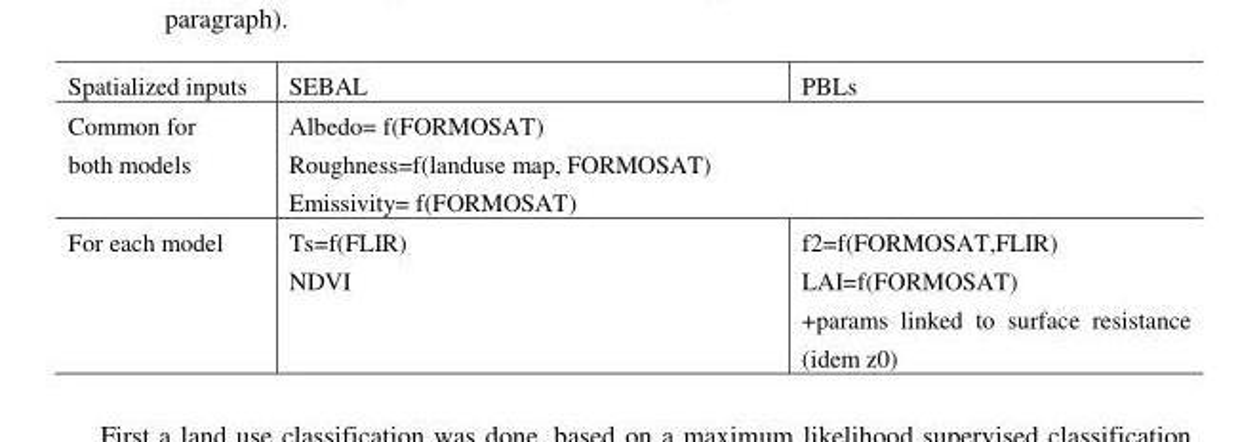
<table><thead><tr><td>Spatialized inputs</td><td>SEBAL</td><td>PBLs</td></tr></thead><tbody><tr><td>Common for both models</td><td colspan="2">Albedo= f(FORMOSAT) Roughness=f(landuse map, FORMOSAT) Emissivity= f(FORMOSAT)</td></tr><tr><td>For each model</td><td>Ts=f(FLIR) NDVI</td><td>f2=f(FORMOSAT,FLIR) LAI=f(FORMOSAT) +params linked to surface resistance (idem z0)</td></tr></tbody></table>